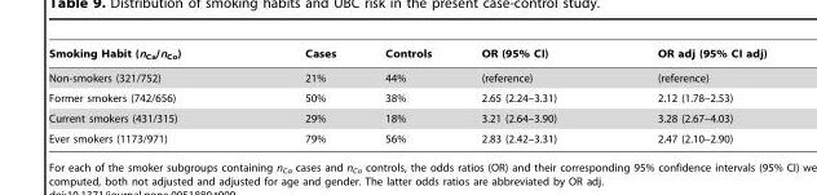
<table><thead><tr><td>Smoking Habit (n<sub>Ca</sub>/n<sub>Co</sub>)</td><td>Cases</td><td>Controls</td><td>OR (95% CI)</td><td>OR adj (95% CI adj)</td></tr></thead><tbody><tr><td>Non-smokers (321/752)</td><td>21%</td><td>44%</td><td>(reference)</td><td>(reference)</td></tr><tr><td>Former smokers (742/656)</td><td>50%</td><td>38%</td><td>2.65 (2.24–3.31)</td><td>2.12 (1.78–2.53)</td></tr><tr><td>Current smokers (431/315)</td><td>29%</td><td>18%</td><td>3.21 (2.64–3.90)</td><td>3.28 (2.67–4.03)</td></tr><tr><td>Ever smokers (1173/971)</td><td>79%</td><td>56%</td><td>2.83 (2.42–3.31)</td><td>2.47 (2.10–2.90)</td></tr></tbody></table>